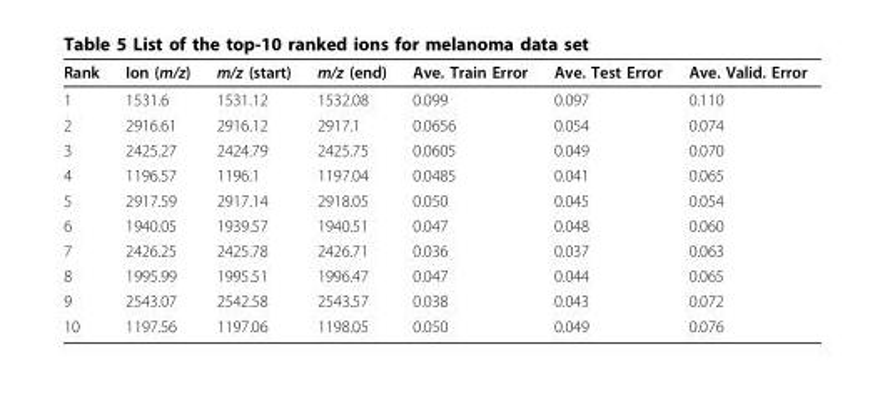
<table><thead><tr><td>Rank</td><td>Ion (m/z)</td><td>m/z (start)</td><td>m/z (end)</td><td>Ave. Train Error</td><td>Ave. Test Error</td><td>Ave. Valid. Error</td></tr></thead><tbody><tr><td>1</td><td>1531.6</td><td>1531.12</td><td>1532.08</td><td>0.099</td><td>0.097</td><td>0.110</td></tr><tr><td>2</td><td>2916.61</td><td>2916.12</td><td>2917.1</td><td>0.0656</td><td>0.054</td><td>0.074</td></tr><tr><td>3</td><td>2425.27</td><td>2424.79</td><td>2425.75</td><td>0.0605</td><td>0.049</td><td>0.070</td></tr><tr><td>4</td><td>1196.57</td><td>1196.1</td><td>1197.04</td><td>0.0485</td><td>0.041</td><td>0.065</td></tr><tr><td>5</td><td>2917.59</td><td>2917.14</td><td>2918.05</td><td>0.050</td><td>0.045</td><td>0.054</td></tr><tr><td>6</td><td>1940.05</td><td>1939.57</td><td>1940.51</td><td>0.047</td><td>0.048</td><td>0.060</td></tr><tr><td>7</td><td>2426.25</td><td>2425.78</td><td>2426.71</td><td>0.036</td><td>0.037</td><td>0.063</td></tr><tr><td>8</td><td>1995.99</td><td>1995.51</td><td>1996.47</td><td>0.047</td><td>0.044</td><td>0.065</td></tr><tr><td>9</td><td>2543.07</td><td>2542.58</td><td>2543.57</td><td>0.038</td><td>0.043</td><td>0.072</td></tr><tr><td>10</td><td>1197.56</td><td>1197.06</td><td>1198.05</td><td>0.050</td><td>0.049</td><td>0.076</td></tr></tbody></table>